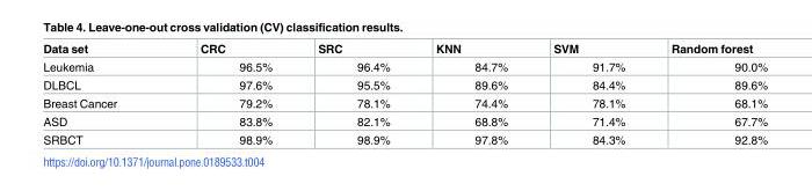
<table><thead><tr><td>Data set</td><td>CRC</td><td>SRC</td><td>KNN</td><td>SVM</td><td>Random forest</td></tr></thead><tbody><tr><td>Leukemia</td><td>96.5%</td><td>96.4%</td><td>84.7%</td><td>91.7%</td><td>90.0%</td></tr><tr><td>DLBCL</td><td>97.6%</td><td>95.5%</td><td>89.6%</td><td>84.4%</td><td>89.6%</td></tr><tr><td>Breast Cancer</td><td>79.2%</td><td>78.1%</td><td>74.4%</td><td>78.1%</td><td>68.1%</td></tr><tr><td>ASD</td><td>83.8%</td><td>82.1%</td><td>68.8%</td><td>71.4%</td><td>67.7%</td></tr><tr><td>SRBCT</td><td>98.9%</td><td>98.9%</td><td>97.8%</td><td>84.3%</td><td>92.8%</td></tr></tbody></table>